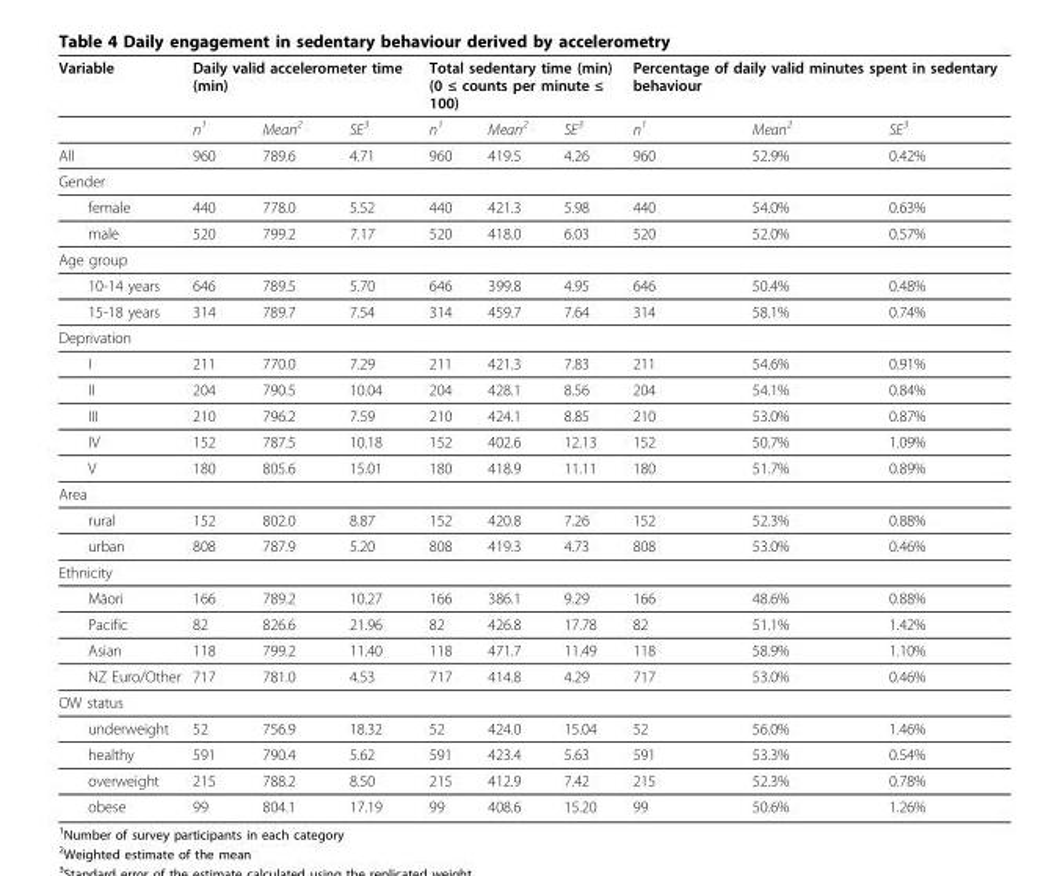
<table><thead><tr><td rowspan="2">Variable</td><td colspan="3">Daily valid accelerometer time (min)</td><td colspan="3">Total sedentary time (min) (0 ≤ counts per minute ≤ 100)</td><td colspan="3">Percentage of daily valid minutes spent in sedentary behaviour</td></tr><tr><td>n<sup>1</sup></td><td>Mean<sup>2</sup></td><td>SE<sup>3</sup></td><td>n<sup>1</sup></td><td>Mean<sup>2</sup></td><td>SE<sup>3</sup></td><td>n<sup>1</sup></td><td>Mean<sup>2</sup></td><td>SE<sup>3</sup></td></tr></thead><tbody><tr><td>All</td><td>960</td><td>789.6</td><td>4.71</td><td>960</td><td>419.5</td><td>4.26</td><td>960</td><td>52.9%</td><td>0.42%</td></tr><tr><td colspan="10">Gender</td></tr><tr><td>female</td><td>440</td><td>778.0</td><td>5.52</td><td>440</td><td>421.3</td><td>5.98</td><td>440</td><td>54.0%</td><td>0.63%</td></tr><tr><td>male</td><td>520</td><td>799.2</td><td>7.17</td><td>520</td><td>418.0</td><td>6.03</td><td>520</td><td>52.0%</td><td>0.57%</td></tr><tr><td colspan="10">Age group</td></tr><tr><td>10-14 years</td><td>646</td><td>789.5</td><td>5.70</td><td>646</td><td>399.8</td><td>4.95</td><td>646</td><td>50.4%</td><td>0.48%</td></tr><tr><td>15-18 years</td><td>314</td><td>789.7</td><td>7.54</td><td>314</td><td>459.7</td><td>7.64</td><td>314</td><td>58.1%</td><td>0.74%</td></tr><tr><td colspan="10">Deprivation</td></tr><tr><td>I</td><td>211</td><td>770.0</td><td>7.29</td><td>211</td><td>421.3</td><td>7.83</td><td>211</td><td>54.6%</td><td>0.91%</td></tr><tr><td>II</td><td>204</td><td>790.5</td><td>10.04</td><td>204</td><td>428.1</td><td>8.56</td><td>204</td><td>54.1%</td><td>0.84%</td></tr><tr><td>III</td><td>210</td><td>796.2</td><td>7.59</td><td>210</td><td>424.1</td><td>8.85</td><td>210</td><td>53.0%</td><td>0.87%</td></tr><tr><td>IV</td><td>152</td><td>787.5</td><td>10.18</td><td>152</td><td>402.6</td><td>12.13</td><td>152</td><td>50.7%</td><td>1.09%</td></tr><tr><td>V</td><td>180</td><td>805.6</td><td>15.01</td><td>180</td><td>418.9</td><td>11.11</td><td>180</td><td>51.7%</td><td>0.89%</td></tr><tr><td colspan="10">Area</td></tr><tr><td>rural</td><td>152</td><td>802.0</td><td>8.87</td><td>152</td><td>420.8</td><td>7.26</td><td>152</td><td>52.3%</td><td>0.88%</td></tr><tr><td>urban</td><td>808</td><td>787.9</td><td>5.20</td><td>808</td><td>419.3</td><td>4.73</td><td>808</td><td>53.0%</td><td>0.46%</td></tr><tr><td colspan="10">Ethnicity</td></tr><tr><td>Māori</td><td>166</td><td>789.2</td><td>10.27</td><td>166</td><td>386.1</td><td>9.29</td><td>166</td><td>48.6%</td><td>0.88%</td></tr><tr><td>Pacific</td><td>82</td><td>826.6</td><td>21.96</td><td>82</td><td>426.8</td><td>17.78</td><td>82</td><td>51.1%</td><td>1.42%</td></tr><tr><td>Asian</td><td>118</td><td>799.2</td><td>11.40</td><td>118</td><td>471.7</td><td>11.49</td><td>118</td><td>58.9%</td><td>1.10%</td></tr><tr><td>NZ Euro/Other</td><td>717</td><td>781.0</td><td>4.53</td><td>717</td><td>414.8</td><td>4.29</td><td>717</td><td>53.0%</td><td>0.46%</td></tr><tr><td colspan="10">OW status</td></tr><tr><td>underweight</td><td>52</td><td>756.9</td><td>18.32</td><td>52</td><td>424.0</td><td>15.04</td><td>52</td><td>56.0%</td><td>1.46%</td></tr><tr><td>healthy</td><td>591</td><td>790.4</td><td>5.62</td><td>591</td><td>423.4</td><td>5.63</td><td>591</td><td>53.3%</td><td>0.54%</td></tr><tr><td>overweight</td><td>215</td><td>788.2</td><td>8.50</td><td>215</td><td>412.9</td><td>7.42</td><td>215</td><td>52.3%</td><td>0.78%</td></tr><tr><td>obese</td><td>99</td><td>804.1</td><td>17.19</td><td>99</td><td>408.6</td><td>15.20</td><td>99</td><td>50.6%</td><td>1.26%</td></tr></tbody></table>